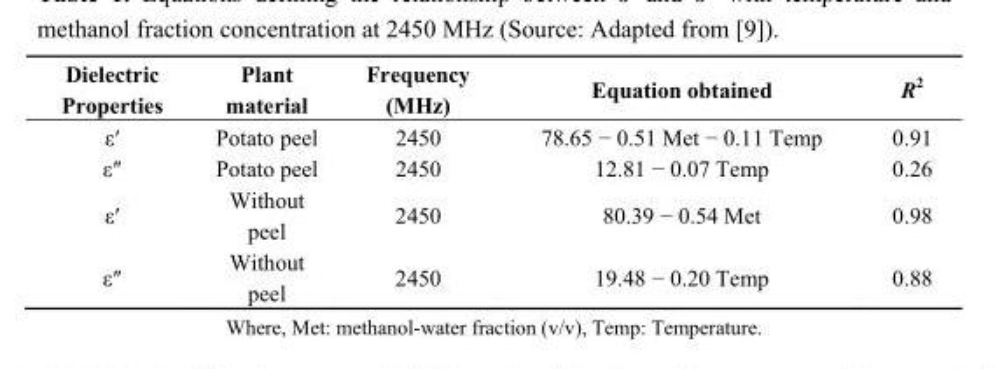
<table><thead><tr><td>Dielectric Properties</td><td>Plant material</td><td>Frequency (MHz)</td><td>Equation obtained</td><td>R<sup>2</sup></td></tr></thead><tbody><tr><td>ε′</td><td>Potato peel</td><td>2450</td><td>78.65 − 0.51 Met − 0.11 Temp</td><td>0.91</td></tr><tr><td>ε″</td><td>Potato peel</td><td>2450</td><td>12.81 − 0.07 Temp</td><td>0.26</td></tr><tr><td>ε′</td><td>Without peel</td><td>2450</td><td>80.39 − 0.54 Met</td><td>0.98</td></tr><tr><td>ε″</td><td>Without peel</td><td>2450</td><td>19.48 − 0.20 Temp</td><td>0.88</td></tr></tbody></table>